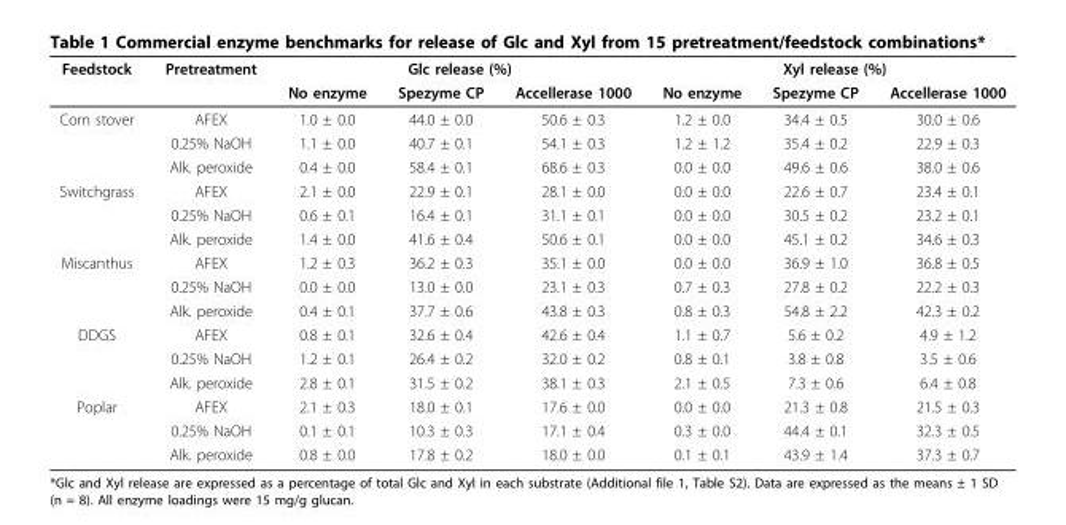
<table><thead><tr><td rowspan="2">Feedstock</td><td rowspan="2">Pretreatment</td><td colspan="3">Glc release (%)</td><td colspan="3">Xyl release (%)</td></tr><tr><td>No enzyme</td><td>Spezyme CP</td><td>Accellerase 1000</td><td>No enzyme</td><td>Spezyme CP</td><td>Accellerase 1000</td></tr></thead><tbody><tr><td rowspan="3">Corn stover</td><td>AFEX</td><td>1.0 ± 0.0</td><td>44.0 ± 0.0</td><td>50.6 ± 0.3</td><td>1.2 ± 0.0</td><td>34.4 ± 0.5</td><td>30.0 ± 0.6</td></tr><tr><td>0.25% NaOH</td><td>1.1 ± 0.0</td><td>40.7 ± 0.1</td><td>54.1 ± 0.3</td><td>1.2 ± 1.2</td><td>35.4 ± 0.2</td><td>22.9 ± 0.3</td></tr><tr><td>Alk. peroxide</td><td>0.4 ± 0.0</td><td>58.4 ± 0.1</td><td>68.6 ± 0.3</td><td>0.0 ± 0.0</td><td>49.6 ± 0.6</td><td>38.0 ± 0.6</td></tr><tr><td rowspan="3">Switchgrass</td><td>AFEX</td><td>2.1 ± 0.0</td><td>22.9 ± 0.1</td><td>28.1 ± 0.0</td><td>0.0 ± 0.0</td><td>22.6 ± 0.7</td><td>23.4 ± 0.1</td></tr><tr><td>0.25% NaOH</td><td>0.6 ± 0.1</td><td>16.4 ± 0.1</td><td>31.1 ± 0.1</td><td>0.0 ± 0.0</td><td>30.5 ± 0.2</td><td>23.2 ± 0.1</td></tr><tr><td>Alk. peroxide</td><td>1.4 ± 0.0</td><td>41.6 ± 0.4</td><td>50.6 ± 0.1</td><td>0.0 ± 0.0</td><td>45.1 ± 0.2</td><td>34.6 ± 0.3</td></tr><tr><td rowspan="3">Miscanthus</td><td>AFEX</td><td>1.2 ± 0.3</td><td>36.2 ± 0.3</td><td>35.1 ± 0.0</td><td>0.0 ± 0.0</td><td>36.9 ± 1.0</td><td>36.8 ± 0.5</td></tr><tr><td>0.25% NaOH</td><td>0.0 ± 0.0</td><td>13.0 ± 0.0</td><td>23.1 ± 0.3</td><td>0.7 ± 0.3</td><td>27.8 ± 0.2</td><td>22.2 ± 0.3</td></tr><tr><td>Alk. peroxide</td><td>0.4 ± 0.1</td><td>37.7 ± 0.6</td><td>43.8 ± 0.3</td><td>0.8 ± 0.3</td><td>54.8 ± 2.2</td><td>42.3 ± 0.2</td></tr><tr><td rowspan="3">DDGS</td><td>AFEX</td><td>0.8 ± 0.1</td><td>32.6 ± 0.4</td><td>42.6 ± 0.4</td><td>1.1 ± 0.7</td><td>5.6 ± 0.2</td><td>4.9 ± 1.2</td></tr><tr><td>0.25% NaOH</td><td>1.2 ± 0.1</td><td>26.4 ± 0.2</td><td>32.0 ± 0.2</td><td>0.8 ± 0.1</td><td>3.8 ± 0.8</td><td>3.5 ± 0.6</td></tr><tr><td>Alk. peroxide</td><td>2.8 ± 0.1</td><td>31.5 ± 0.2</td><td>38.1 ± 0.3</td><td>2.1 ± 0.5</td><td>7.3 ± 0.6</td><td>6.4 ± 0.8</td></tr><tr><td rowspan="3">Poplar</td><td>AFEX</td><td>2.1 ± 0.3</td><td>18.0 ± 0.1</td><td>17.6 ± 0.0</td><td>0.0 ± 0.0</td><td>21.3 ± 0.8</td><td>21.5 ± 0.3</td></tr><tr><td>0.25% NaOH</td><td>0.1 ± 0.1</td><td>10.3 ± 0.3</td><td>17.1 ± 0.4</td><td>0.3 ± 0.0</td><td>44.4 ± 0.1</td><td>32.3 ± 0.5</td></tr><tr><td>Alk. peroxide</td><td>0.8 ± 0.0</td><td>17.8 ± 0.2</td><td>18.0 ± 0.0</td><td>0.1 ± 0.1</td><td>43.9 ± 1.4</td><td>37.3 ± 0.7</td></tr></tbody></table>